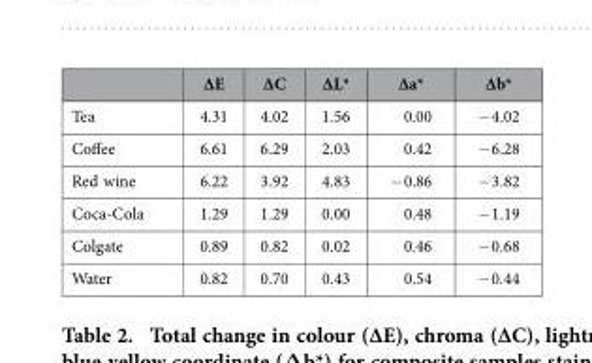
<table><thead><tr><td></td><td>∆E</td><td>∆C</td><td>∆L*</td><td>∆a*</td><td>∆b*</td></tr></thead><tbody><tr><td>Tea</td><td>4.31</td><td>4.02</td><td>1.56</td><td>0.00</td><td>− 4.02</td></tr><tr><td>Coffee</td><td>6.61</td><td>6.29</td><td>2.03</td><td>0.42</td><td>− 6.28</td></tr><tr><td>Red wine</td><td>6.22</td><td>3.92</td><td>4.83</td><td>− 0.86</td><td>− 3.82</td></tr><tr><td>Coca-Cola</td><td>1.29</td><td>1.29</td><td>0.00</td><td>0.48</td><td>− 1.19</td></tr><tr><td>Colgate</td><td>0.89</td><td>0.82</td><td>0.02</td><td>0.46</td><td>− 0.68</td></tr><tr><td>Water</td><td>0.82</td><td>0.70</td><td>0.43</td><td>0.54</td><td>− 0.44</td></tr></tbody></table>